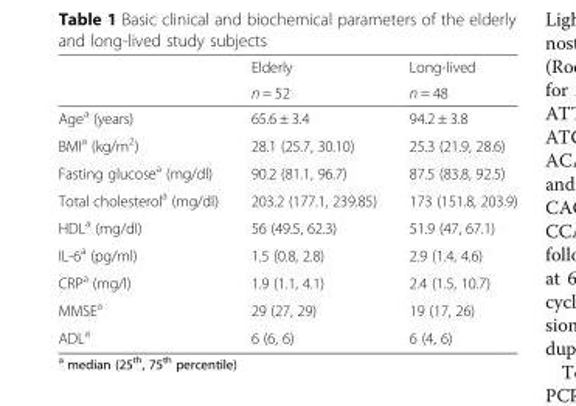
<table><thead><tr><td rowspan="2"></td><td rowspan="2">Elderly n = 52</td><td rowspan="2">Long-lived n = 48</td></tr><tr></tr></thead><tbody><tr><td>Age<sup>a</sup> (years)</td><td>65.6 ± 3.4</td><td>94.2 ± 3.8</td></tr><tr><td>BMI<sup>a</sup> (kg/m<sup>2</sup>)</td><td>28.1 (25.7, 30.10)</td><td>25.3 (21.9, 28.6)</td></tr><tr><td>Fasting glucose<sup>a</sup> (mg/dl)</td><td>90.2 (81.1, 96.7)</td><td>87.5 (83.8, 92.5)</td></tr><tr><td>Total cholesterol<sup>a</sup> (mg/dl)</td><td>203.2 (177.1, 239.85)</td><td>173 (151.8, 203.9)</td></tr><tr><td>HDL<sup>a</sup> (mg/dl)</td><td>56 (49.5, 62.3)</td><td>51.9 (47, 67.1)</td></tr><tr><td>IL-6<sup>a</sup> (pg/ml)</td><td>1.5 (0.8, 2.8)</td><td>2.9 (1.4, 4.6)</td></tr><tr><td>CRP<sup>a</sup> (mg/l)</td><td>1.9 (1.1, 4.1)</td><td>2.4 (1.5, 10.7)</td></tr><tr><td>MMSE<sup>a</sup></td><td>29 (27, 29)</td><td>19 (17, 26)</td></tr><tr><td>ADL<sup>a</sup></td><td>6 (6, 6)</td><td>6 (4, 6)</td></tr></tbody></table>